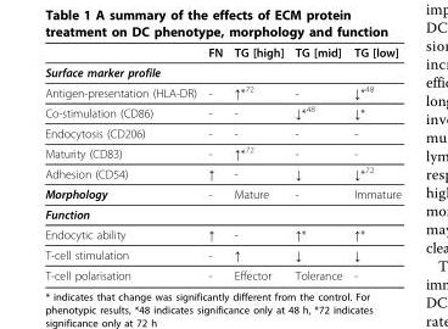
<table><thead><tr><td></td><td>FN</td><td>TG [high]</td><td>TG [mid]</td><td>TG [low]</td></tr></thead><tbody><tr><td colspan="5">Surface marker profile</td></tr><tr><td>Antigen-presentation (HLA-DR)</td><td>-</td><td>↑*<sup>72</sup></td><td>-</td><td>↓*<sup>48</sup></td></tr><tr><td>Co-stimulation (CD86)</td><td>-</td><td>-</td><td>↓*<sup>48</sup></td><td>↓*</td></tr><tr><td>Endocytosis (CD206)</td><td>-</td><td>-</td><td>-</td><td>-</td></tr><tr><td>Maturity (CD83)</td><td>-</td><td>↑*<sup>72</sup></td><td>-</td><td>-</td></tr><tr><td>Adhesion (CD54)</td><td>↑</td><td>-</td><td>↓</td><td>↓*<sup>72</sup></td></tr><tr><td>Morphology</td><td>-</td><td>Mature</td><td>-</td><td>Immature</td></tr><tr><td colspan="5">Function</td></tr><tr><td>Endocytic ability</td><td>↑</td><td>-</td><td>↑*</td><td>↑*</td></tr><tr><td>T-cell stimulation</td><td>-</td><td>↑</td><td>↓</td><td>↓</td></tr><tr><td>T-cell polarisation</td><td>-</td><td>Effector</td><td>Tolerance</td><td>-</td></tr></tbody></table>